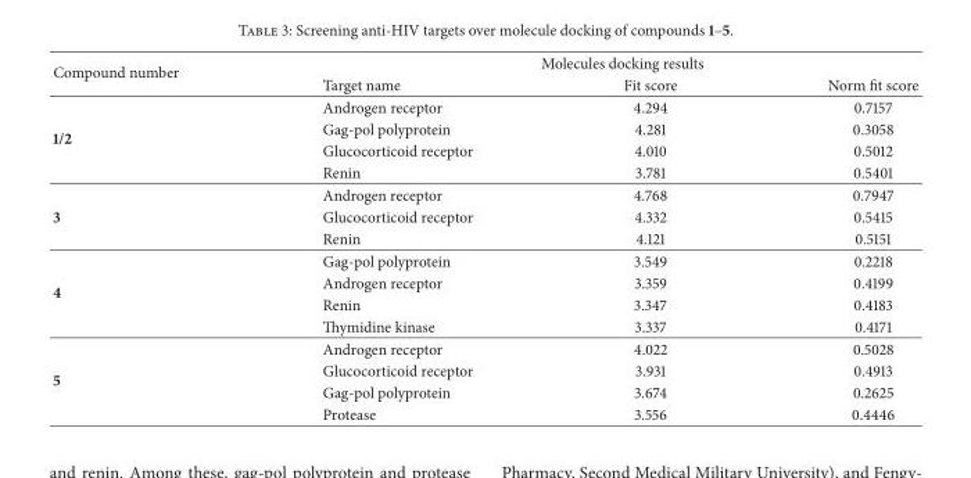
<table><thead><tr><td rowspan="2">Compound number</td><td colspan="3">Molecules docking results</td></tr><tr><td>Target name</td><td>Fit score</td><td>Norm fit score</td></tr></thead><tbody><tr><td></td><td>Androgen receptor</td><td>4.294</td><td>0.7157</td></tr><tr><td rowspan="4">1/2</td><td>Gag-pol polyprotein</td><td>4.281</td><td>0.3058</td></tr><tr><td>Glucocorticoid receptor</td><td>4.010</td><td>0.5012</td></tr><tr><td>Renin</td><td>3.781</td><td>0.5401</td></tr><tr><td>Androgen receptor</td><td>4.768</td><td>0.7947</td></tr><tr><td rowspan="3">3</td><td>Glucocorticoid receptor</td><td>4.332</td><td>0.5415</td></tr><tr><td>Renin</td><td>4.121</td><td>0.5151</td></tr><tr><td>Gag-pol polyprotein</td><td>3.549</td><td>0.2218</td></tr><tr><td rowspan="4">4</td><td>Androgen receptor</td><td>3.359</td><td>0.4199</td></tr><tr><td>Renin</td><td>3.347</td><td>0.4183</td></tr><tr><td>Thymidine kinase</td><td>3.337</td><td>0.4171</td></tr><tr><td>Androgen receptor</td><td>4.022</td><td>0.5028</td></tr><tr><td rowspan="3">5</td><td>Glucocorticoid receptor</td><td>3.931</td><td>0.4913</td></tr><tr><td>Gag-pol polyprotein</td><td>3.674</td><td>0.2625</td></tr><tr><td>Protease</td><td>3.556</td><td>0.4446</td></tr></tbody></table>